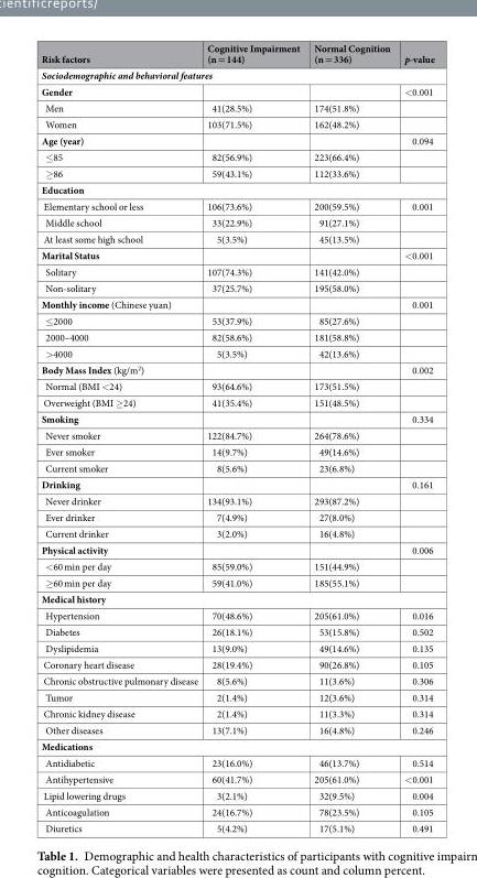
<table><thead><tr><td>Risk factors</td><td>Cognitive Impairment (n = 144)</td><td>Normal Cognition (n = 336)</td><td>p-value</td></tr></thead><tbody><tr><td colspan="4">Sociodemographic and behavioral features</td></tr><tr><td>Gender</td><td></td><td></td><td>&lt;0.001</td></tr><tr><td>Men</td><td>41(28.5%)</td><td>174(51.8%)</td><td></td></tr><tr><td>Women</td><td>103(71.5%)</td><td>162(48.2%)</td><td></td></tr><tr><td>Age (year)</td><td></td><td></td><td>0.094</td></tr><tr><td>≤85</td><td>82(56.9%)</td><td>223(66.4%)</td><td></td></tr><tr><td>≥86</td><td>59(43.1%)</td><td>112(33.6%)</td><td></td></tr><tr><td colspan="4">Education</td></tr><tr><td>Elementary school or less</td><td>106(73.6%)</td><td>200(59.5%)</td><td>0.001</td></tr><tr><td>Middle school</td><td>33(22.9%)</td><td>91(27.1%)</td><td></td></tr><tr><td>At least some high school</td><td>5(3.5%)</td><td>45(13.5%)</td><td></td></tr><tr><td>Marital Status</td><td></td><td></td><td>&lt;0.001</td></tr><tr><td>Solitary</td><td>107(74.3%)</td><td>141(42.0%)</td><td></td></tr><tr><td>Non-solitary</td><td>37(25.7%)</td><td>195(58.0%)</td><td></td></tr><tr><td>Monthly income (Chinese yuan)</td><td></td><td></td><td>0.001</td></tr><tr><td>≤2000</td><td>53(37.9%)</td><td>85(27.6%)</td><td></td></tr><tr><td>2000–4000</td><td>82(58.6%)</td><td>181(58.8%)</td><td></td></tr><tr><td>&gt;4000</td><td>5(3.5%)</td><td>42(13.6%)</td><td></td></tr><tr><td>Body Mass Index (kg/m<sup>2</sup>)</td><td></td><td></td><td>0.002</td></tr><tr><td>Normal (BMI &lt;24)</td><td>93(64.6%)</td><td>173(51.5%)</td><td></td></tr><tr><td>Overweight (BMI ≥24)</td><td>41(35.4%)</td><td>151(48.5%)</td><td></td></tr><tr><td>Smoking</td><td></td><td></td><td>0.334</td></tr><tr><td>Never smoker</td><td>122(84.7%)</td><td>264(78.6%)</td><td></td></tr><tr><td>Ever smoker</td><td>14(9.7%)</td><td>49(14.6%)</td><td></td></tr><tr><td>Current smoker</td><td>8(5.6%)</td><td>23(6.8%)</td><td></td></tr><tr><td>Drinking</td><td></td><td></td><td>0.161</td></tr><tr><td>Never drinker</td><td>134(93.1%)</td><td>293(87.2%)</td><td></td></tr><tr><td>Ever drinker</td><td>7(4.9%)</td><td>27(8.0%)</td><td></td></tr><tr><td>Current drinker</td><td>3(2.0%)</td><td>16(4.8%)</td><td></td></tr><tr><td>Physical activity</td><td></td><td></td><td>0.006</td></tr><tr><td>&lt;60 min per day</td><td>85(59.0%)</td><td>151(44.9%)</td><td></td></tr><tr><td>≥60 min per day</td><td>59(41.0%)</td><td>185(55.1%)</td><td></td></tr><tr><td colspan="4">Medical history</td></tr><tr><td>Hypertension</td><td>70(48.6%)</td><td>205(61.0%)</td><td>0.016</td></tr><tr><td>Diabetes</td><td>26(18.1%)</td><td>53(15.8%)</td><td>0.502</td></tr><tr><td>Dyslipidemia</td><td>13(9.0%)</td><td>49(14.6%)</td><td>0.135</td></tr><tr><td>Coronary heart disease</td><td>28(19.4%)</td><td>90(26.8%)</td><td>0.105</td></tr><tr><td>Chronic obstructive pulmonary disease</td><td>8(5.6%)</td><td>11(3.6%)</td><td>0.306</td></tr><tr><td>Tumor</td><td>2(1.4%)</td><td>12(3.6%)</td><td>0.314</td></tr><tr><td>Chronic kidney disease</td><td>2(1.4%)</td><td>11(3.3%)</td><td>0.314</td></tr><tr><td>Other diseases</td><td>13(7.1%)</td><td>16(4.8%)</td><td>0.246</td></tr><tr><td colspan="4">Medications</td></tr><tr><td>Antidiabetic</td><td>23(16.0%)</td><td>46(13.7%)</td><td>0.514</td></tr><tr><td>Antihypertensive</td><td>60(41.7%)</td><td>205(61.0%)</td><td>&lt;0.001</td></tr><tr><td>Lipid lowering drugs</td><td>3(2.1%)</td><td>32(9.5%)</td><td>0.004</td></tr><tr><td>Anticoagulation</td><td>24(16.7%)</td><td>78(23.5%)</td><td>0.105</td></tr><tr><td>Diuretics</td><td>5(4.2%)</td><td>17(5.1%)</td><td>0.491</td></tr></tbody></table>